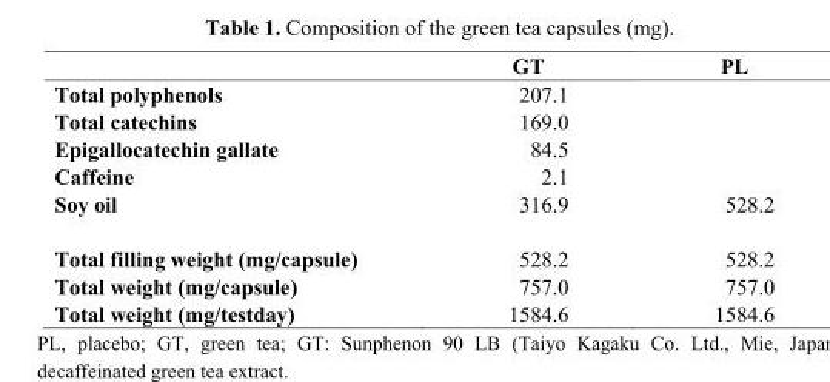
<table><thead><tr><td></td><td>GT</td><td>PL</td></tr></thead><tbody><tr><td>Total polyphenols</td><td>207.1</td><td></td></tr><tr><td>Total catechins</td><td>169.0</td><td></td></tr><tr><td>Epigallocatechin gallate</td><td>84.5</td><td></td></tr><tr><td>Caffeine</td><td>2.1</td><td></td></tr><tr><td>Soy oil</td><td>316.9</td><td>528.2</td></tr><tr><td>Total filling weight (mg/capsule)</td><td>528.2</td><td>528.2</td></tr><tr><td>Total weight (mg/capsule)</td><td>757.0</td><td>757.0</td></tr><tr><td>Total weight (mg/testday)</td><td>1584.6</td><td>1584.6</td></tr></tbody></table>